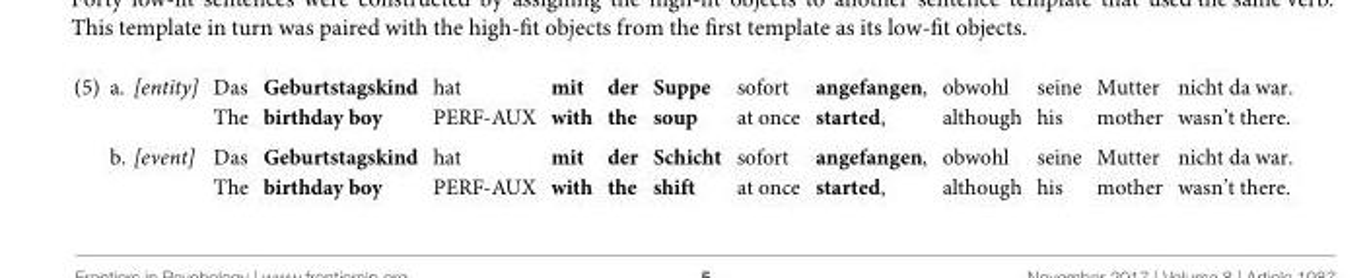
<table><tbody><tr><td rowspan="4">(5)</td><td>a.</td><td>[entity]</td><td>Das</td><td>Geburtstagskind</td><td>hat</td><td>mit</td><td>der</td><td>Suppe</td><td>sofort</td><td>angefangen,</td><td>obwohl</td><td>seine</td><td>Mutter</td><td>nicht da war.</td></tr><tr><td></td><td></td><td>The</td><td>birthday boy</td><td>PERF-AUX</td><td>with</td><td>the</td><td>soup</td><td>at once</td><td>started,</td><td>although</td><td>his</td><td>mother</td><td>wasn’t there.</td></tr><tr><td>b.</td><td>[event]</td><td>Das</td><td>Geburtstagskind</td><td>hat</td><td>mit</td><td>der</td><td>Schicht</td><td>sofort</td><td>angefangen,</td><td>obwohl</td><td>seine</td><td>Mutter</td><td>nicht da war.</td></tr><tr><td></td><td></td><td>The</td><td>birthday boy</td><td>PERF-AUX</td><td>with</td><td>the</td><td>shift</td><td>at once</td><td>started,</td><td>although</td><td>his</td><td>mother</td><td>wasn’t there.</td></tr></tbody></table>